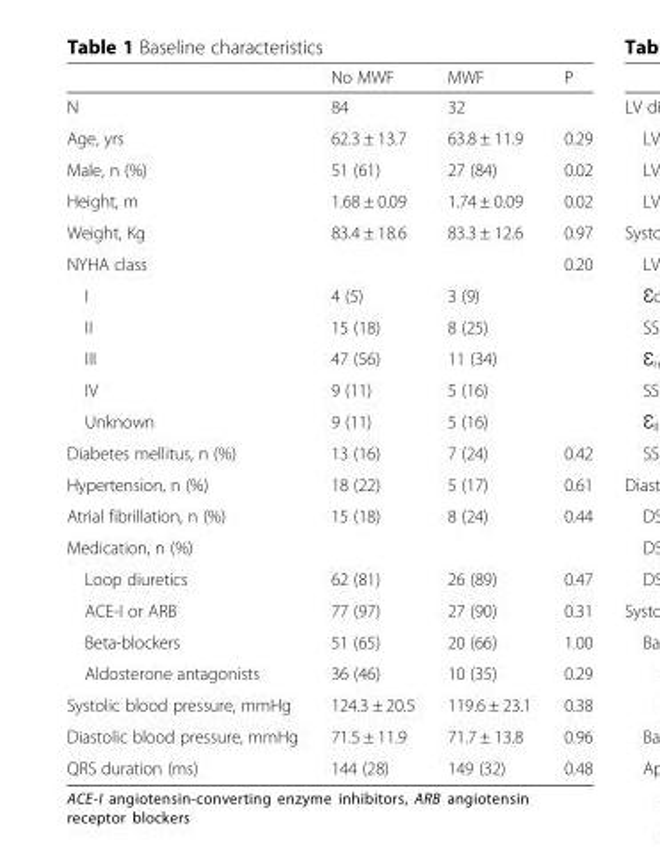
<table><thead><tr><td></td><td>No MWF</td><td>MWF</td><td>P</td></tr></thead><tbody><tr><td>N</td><td>84</td><td>32</td><td></td></tr><tr><td>Age, yrs</td><td>62.3 ± 13.7</td><td>63.8 ± 11.9</td><td>0.29</td></tr><tr><td>Male, n (%)</td><td>51 (61)</td><td>27 (84)</td><td>0.02</td></tr><tr><td>Height, m</td><td>1.68 ± 0.09</td><td>1.74 ± 0.09</td><td>0.02</td></tr><tr><td>Weight, Kg</td><td>83.4 ± 18.6</td><td>83.3 ± 12.6</td><td>0.97</td></tr><tr><td>NYHA class</td><td></td><td></td><td>0.20</td></tr><tr><td>I</td><td>4 (5)</td><td>3 (9)</td><td></td></tr><tr><td>II</td><td>15 (18)</td><td>8 (25)</td><td></td></tr><tr><td>III</td><td>47 (56)</td><td>11 (34)</td><td></td></tr><tr><td>IV</td><td>9 (11)</td><td>5 (16)</td><td></td></tr><tr><td>Unknown</td><td>9 (11)</td><td>5 (16)</td><td></td></tr><tr><td>Diabetes mellitus, n (%)</td><td>13 (16)</td><td>7 (24)</td><td>0.42</td></tr><tr><td>Hypertension, n (%)</td><td>18 (22)</td><td>5 (17)</td><td>0.61</td></tr><tr><td>Atrial fibrillation, n (%)</td><td>15 (18)</td><td>8 (24)</td><td>0.44</td></tr><tr><td colspan="4">Medication, n (%)</td></tr><tr><td>Loop diuretics</td><td>62 (81)</td><td>26 (89)</td><td>0.47</td></tr><tr><td>ACE-I or ARB</td><td>77 (97)</td><td>27 (90)</td><td>0.31</td></tr><tr><td>Beta-blockers</td><td>51 (65)</td><td>20 (66)</td><td>1.00</td></tr><tr><td>Aldosterone antagonists</td><td>36 (46)</td><td>10 (35)</td><td>0.29</td></tr><tr><td>Systolic blood pressure, mmHg</td><td>124.3 ± 20.5</td><td>119.6 ± 23.1</td><td>0.38</td></tr><tr><td>Diastolic blood pressure, mmHg</td><td>71.5 ± 11.9</td><td>71.7 ± 13.8</td><td>0.96</td></tr><tr><td>QRS duration (ms)</td><td>144 (28)</td><td>149 (32)</td><td>0.48</td></tr></tbody></table>